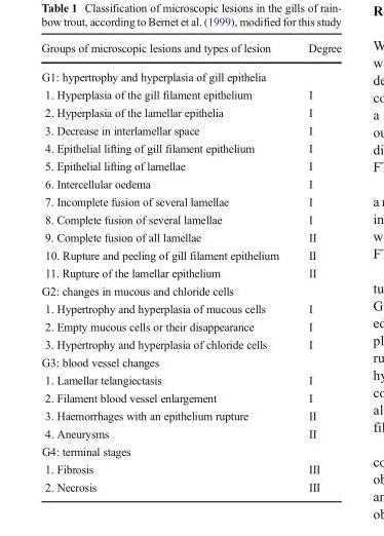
<table><thead><tr><td>Groups of microscopic lesions and types of lesion</td><td>Degree</td></tr></thead><tbody><tr><td colspan="2">G1: hypertrophy and hyperplasia of gill epithelia</td></tr><tr><td>1. Hyperplasia of the gill filament epithelium</td><td>I</td></tr><tr><td>2. Hyperplasia of the lamellar epithelia</td><td>I</td></tr><tr><td>3. Decrease in interlamellar space</td><td>I</td></tr><tr><td>4. Epithelial lifting of gill filament epithelium</td><td>I</td></tr><tr><td>5. Epithelial lifting of lamellae</td><td>I</td></tr><tr><td>6. Intercellular oedema</td><td>I</td></tr><tr><td>7. Incomplete fusion of several lamellae</td><td>I</td></tr><tr><td>8. Complete fusion of several lamellae</td><td>I</td></tr><tr><td>9. Complete fusion of all lamellae</td><td>II</td></tr><tr><td>10. Rupture and peeling of gill filament epithelium</td><td>II</td></tr><tr><td>11. Rupture of the lamellar epithelium</td><td>II</td></tr><tr><td colspan="2">G2: changes in mucous and chloride cells</td></tr><tr><td>1. Hypertrophy and hyperplasia of mucous cells</td><td>I</td></tr><tr><td>2. Empty mucous cells or their disappearance</td><td>I</td></tr><tr><td>3. Hypertrophy and hyperplasia of chloride cells</td><td>I</td></tr><tr><td colspan="2">G3: blood vessel changes</td></tr><tr><td>1. Lamellar telangiectasis</td><td>I</td></tr><tr><td>2. Filament blood vessel enlargement</td><td>I</td></tr><tr><td>3. Haemorrhages with an epithelium rupture</td><td>II</td></tr><tr><td>4. Aneurysms</td><td>II</td></tr><tr><td colspan="2">G4: terminal stages</td></tr><tr><td>1. Fibrosis</td><td>III</td></tr><tr><td>2. Necrosis</td><td>III</td></tr></tbody></table>